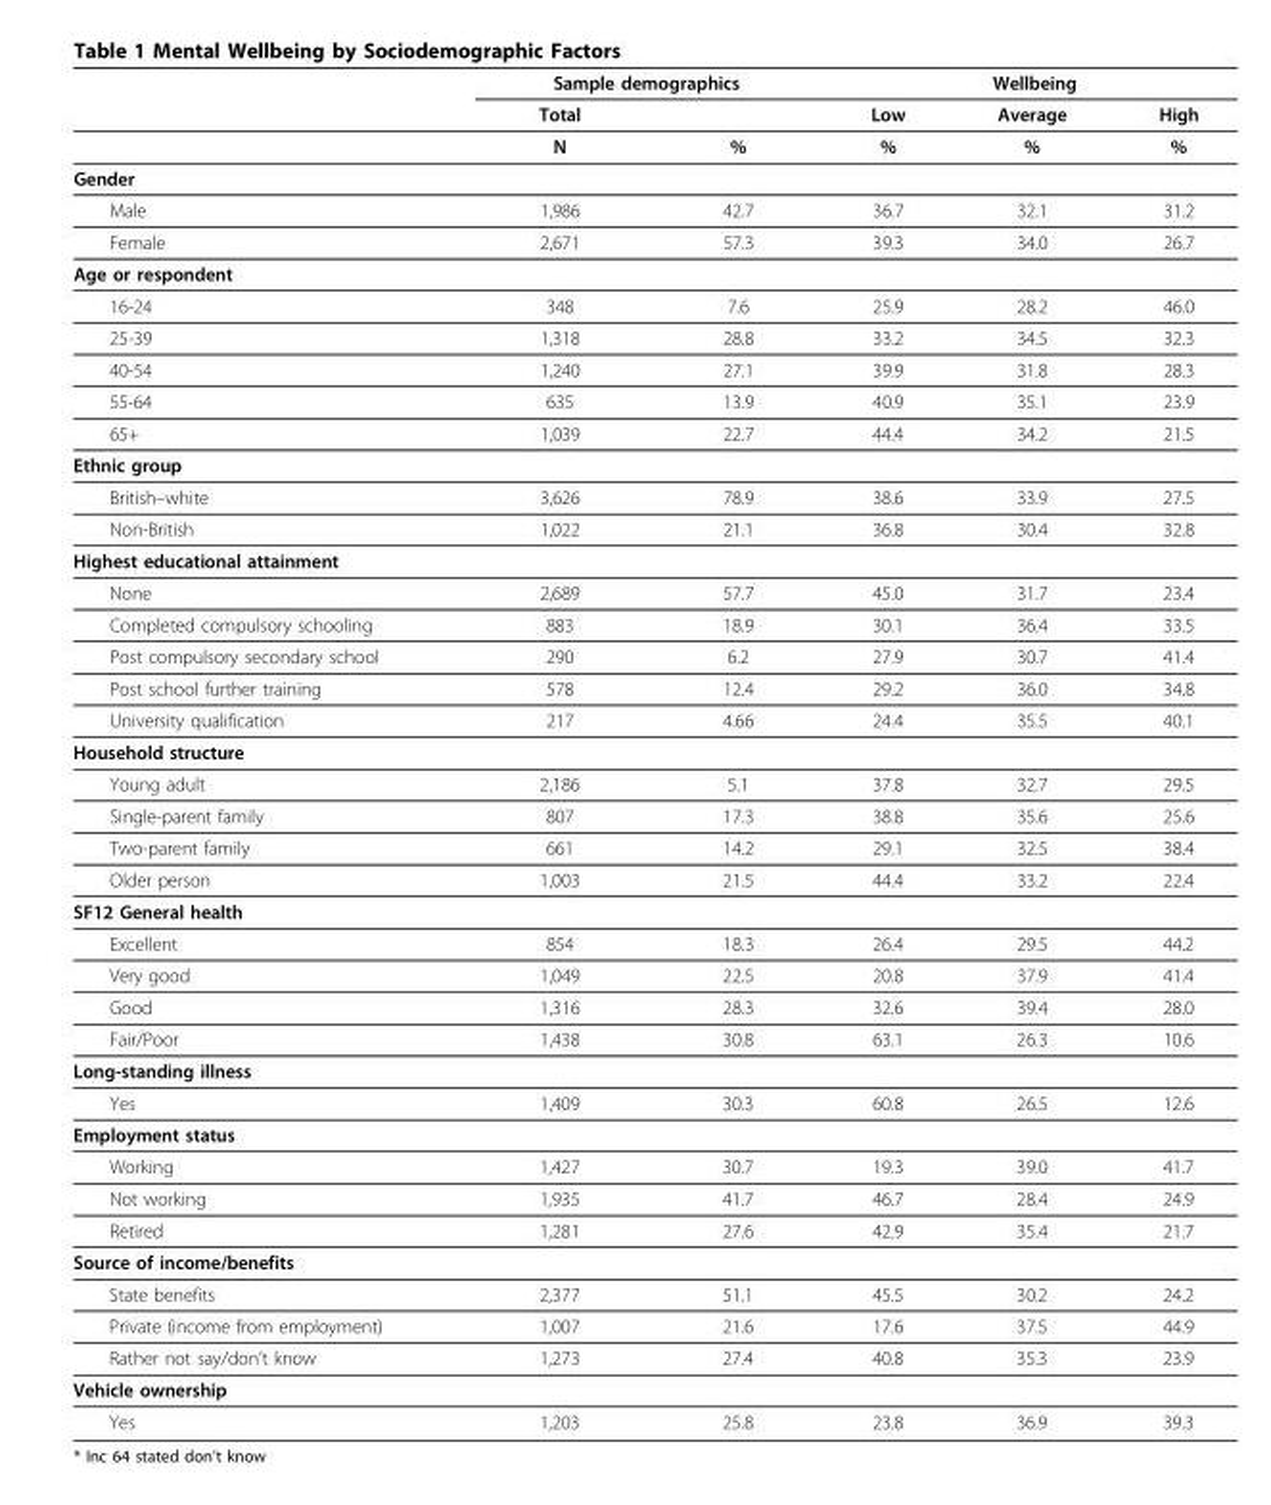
<table><thead><tr><td rowspan="2"></td><td colspan="2">Sample demographics</td><td colspan="3">Wellbeing</td></tr><tr><td>Total</td><td></td><td>Low</td><td>Average</td><td>High</td></tr></thead><tbody><tr><td></td><td>N</td><td>%</td><td>%</td><td>%</td><td>%</td></tr><tr><td colspan="6">Gender</td></tr><tr><td>Male</td><td>1,986</td><td>42.7</td><td>36.7</td><td>32.1</td><td>31.2</td></tr><tr><td>Female</td><td>2,671</td><td>57.3</td><td>39.3</td><td>34.0</td><td>26.7</td></tr><tr><td colspan="6">Age or respondent</td></tr><tr><td>16-24</td><td>348</td><td>7.6</td><td>25.9</td><td>28.2</td><td>46.0</td></tr><tr><td>25-39</td><td>1,318</td><td>28.8</td><td>33.2</td><td>34.5</td><td>32.3</td></tr><tr><td>40-54</td><td>1,240</td><td>27.1</td><td>39.9</td><td>31.8</td><td>28.3</td></tr><tr><td>55-64</td><td>635</td><td>13.9</td><td>40.9</td><td>35.1</td><td>23.9</td></tr><tr><td>65+</td><td>1,039</td><td>22.7</td><td>44.4</td><td>34.2</td><td>21.5</td></tr><tr><td colspan="6">Ethnic group</td></tr><tr><td>British–white</td><td>3,626</td><td>78.9</td><td>38.6</td><td>33.9</td><td>27.5</td></tr><tr><td>Non-British</td><td>1,022</td><td>21.1</td><td>36.8</td><td>30.4</td><td>32.8</td></tr><tr><td colspan="6">Highest educational attainment</td></tr><tr><td>None</td><td>2,689</td><td>57.7</td><td>45.0</td><td>31.7</td><td>23.4</td></tr><tr><td>Completed compulsory schooling</td><td>883</td><td>18.9</td><td>30.1</td><td>36.4</td><td>33.5</td></tr><tr><td>Post compulsory secondary school</td><td>290</td><td>6.2</td><td>27.9</td><td>30.7</td><td>41.4</td></tr><tr><td>Post school further training</td><td>578</td><td>12.4</td><td>29.2</td><td>36.0</td><td>34.8</td></tr><tr><td>University qualification</td><td>217</td><td>4.66</td><td>24.4</td><td>35.5</td><td>40.1</td></tr><tr><td colspan="6">Household structure</td></tr><tr><td>Young adult</td><td>2,186</td><td>5.1</td><td>37.8</td><td>32.7</td><td>29.5</td></tr><tr><td>Single-parent family</td><td>807</td><td>17.3</td><td>38.8</td><td>35.6</td><td>25.6</td></tr><tr><td>Two-parent family</td><td>661</td><td>14.2</td><td>29.1</td><td>32.5</td><td>38.4</td></tr><tr><td>Older person</td><td>1,003</td><td>21.5</td><td>44.4</td><td>33.2</td><td>22.4</td></tr><tr><td colspan="6">SF12 General health</td></tr><tr><td>Excellent</td><td>854</td><td>18.3</td><td>26.4</td><td>29.5</td><td>44.2</td></tr><tr><td>Very good</td><td>1,049</td><td>22.5</td><td>20.8</td><td>37.9</td><td>41.4</td></tr><tr><td>Good</td><td>1,316</td><td>28.3</td><td>32.6</td><td>39.4</td><td>28.0</td></tr><tr><td>Fair/Poor</td><td>1,438</td><td>30.8</td><td>63.1</td><td>26.3</td><td>10.6</td></tr><tr><td colspan="6">Long-standing illness</td></tr><tr><td>Yes</td><td>1,409</td><td>30.3</td><td>60.8</td><td>26.5</td><td>12.6</td></tr><tr><td colspan="6">Employment status</td></tr><tr><td>Working</td><td>1,427</td><td>30.7</td><td>19.3</td><td>39.0</td><td>41.7</td></tr><tr><td>Not working</td><td>1,935</td><td>41.7</td><td>46.7</td><td>28.4</td><td>24.9</td></tr><tr><td>Retired</td><td>1,281</td><td>27.6</td><td>42.9</td><td>35.4</td><td>21.7</td></tr><tr><td colspan="6">Source of income/benefits</td></tr><tr><td>State benefits</td><td>2,377</td><td>51.1</td><td>45.5</td><td>30.2</td><td>24.2</td></tr><tr><td>Private (income from employment)</td><td>1,007</td><td>21.6</td><td>17.6</td><td>37.5</td><td>44.9</td></tr><tr><td>Rather not say/don’t know</td><td>1,273</td><td>27.4</td><td>40.8</td><td>35.3</td><td>23.9</td></tr><tr><td colspan="6">Vehicle ownership</td></tr><tr><td>Yes</td><td>1,203</td><td>25.8</td><td>23.8</td><td>36.9</td><td>39.3</td></tr></tbody></table>